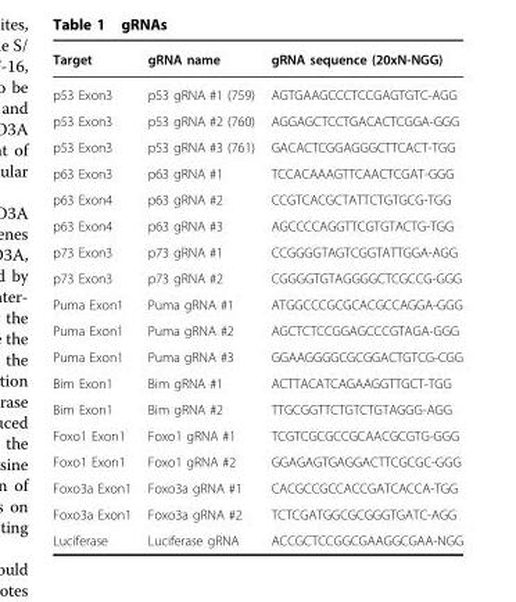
<table><thead><tr><td>Target</td><td>gRNA name</td><td>gRNA sequence (20xN-NGG)</td></tr></thead><tbody><tr><td>p53 Exon3</td><td>p53 gRNA #1 (759)</td><td>AGTGAAGCCCTCCGAGTGTC-AGG</td></tr><tr><td>p53 Exon3</td><td>p53 gRNA #2 (760)</td><td>AGGAGCTCCTGACACTCGGA-GGG</td></tr><tr><td>p53 Exon3</td><td>p53 gRNA #3 (761)</td><td>GACACTCGGAGGGCTTCACT-TGG</td></tr><tr><td>p63 Exon3</td><td>p63 gRNA #1</td><td>TCCACAAAGTTCAACTCGAT-GGG</td></tr><tr><td>p63 Exon4</td><td>p63 gRNA #2</td><td>CCGTCACGCTATTCTGTGCG-TGG</td></tr><tr><td>p63 Exon4</td><td>p63 gRNA #3</td><td>AGCCCCAGGTTCGTGTACTG-TGG</td></tr><tr><td>p73 Exon3</td><td>p73 gRNA #1</td><td>CCGGGGTAGTCGGTATTGGA-AGG</td></tr><tr><td>p73 Exon3</td><td>p73 gRNA #2</td><td>CGGGGTGTAGGGGCTCGCCG-GGG</td></tr><tr><td>Puma Exon1</td><td>Puma gRNA #1</td><td>ATGGCCCGCGCACGCCAGGA-GGG</td></tr><tr><td>Puma Exon1</td><td>Puma gRNA #2</td><td>AGCTCTCCGGAGCCCGTAGA-GGG</td></tr><tr><td>Puma Exon1</td><td>Puma gRNA #3</td><td>GGAAGGGGCGCGGACTGTCG-CGG</td></tr><tr><td>Bim Exon1</td><td>Bim gRNA #1</td><td>ACTTACATCAGAAGGTTGCT-TGG</td></tr><tr><td>Bim Exon1</td><td>Bim gRNA #2</td><td>TTGCGGTTCTGTCTGTAGGG-AGG</td></tr><tr><td>Foxo1 Exon1</td><td>Foxo1 gRNA #1</td><td>TCGTCGCGCCGCAACGCGTG-GGG</td></tr><tr><td>Foxo1 Exon1</td><td>Foxo1 gRNA #2</td><td>GGAGAGTGAGGACTTCGCGC-GGG</td></tr><tr><td>Foxo3a Exon1</td><td>Foxo3a gRNA #1</td><td>CACGCCGCCACCGATCACCA-TGG</td></tr><tr><td>Foxo3a Exon1</td><td>Foxo3a gRNA #2</td><td>TCTCGATGGCGCGGGTGATC-AGG</td></tr><tr><td>Luciferase</td><td>Luciferase gRNA</td><td>ACCGCTCCGGCGAAGGCGAA-NGG</td></tr></tbody></table>